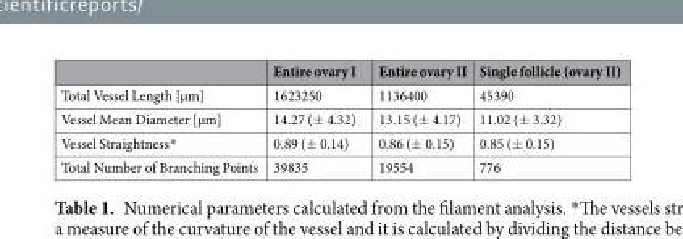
<table><thead><tr><td></td><td>Entire ovary I</td><td>Entire ovary II</td><td>Single follicle (ovary II)</td></tr></thead><tbody><tr><td>Total Vessel Length [µm]</td><td>1623250</td><td>1136400</td><td>45390</td></tr><tr><td>Vessel Mean Diameter [µm]</td><td>14.27 (± 4.32)</td><td>13.15 (± 4.17)</td><td>11.02 (± 3.32)</td></tr><tr><td>Vessel Straightness*</td><td>0.89 (± 0.14)</td><td>0.86 (± 0.15)</td><td>0.85 (± 0.15)</td></tr><tr><td>Total Number of Branching Points</td><td>39835</td><td>19554</td><td>776</td></tr></tbody></table>